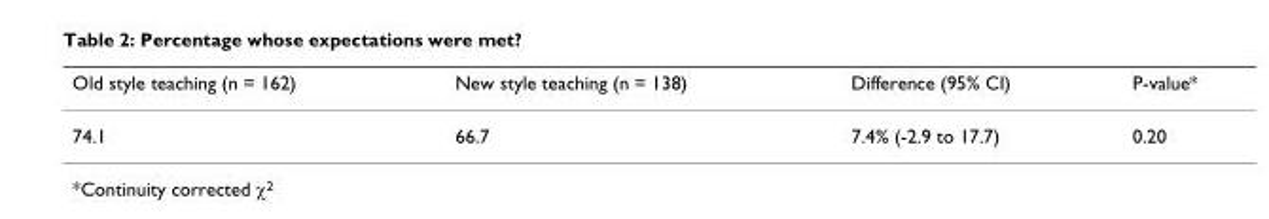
<table><thead><tr><td>Old style teaching (n = 162)</td><td>New style teaching (n = 138)</td><td>Difference (95% CI)</td><td>P-value*</td></tr></thead><tbody><tr><td>74.1</td><td>66.7</td><td>7.4% (-2.9 to 17.7)</td><td>0.20</td></tr></tbody></table>